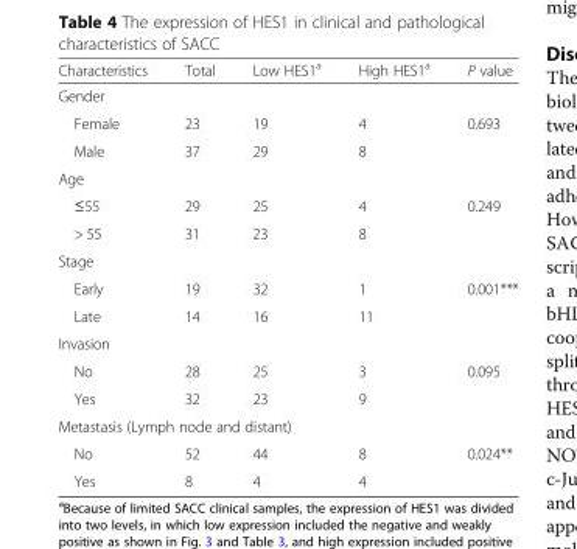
<table><thead><tr><td>Characteristics</td><td>Total</td><td>Low HES1<sup>a</sup></td><td>High HES1<sup>a</sup></td><td>P value</td></tr></thead><tbody><tr><td colspan="5">Gender</td></tr><tr><td>Female</td><td>23</td><td>19</td><td>4</td><td>0.693</td></tr><tr><td>Male</td><td>37</td><td>29</td><td>8</td><td></td></tr><tr><td colspan="5">Age</td></tr><tr><td>≤55</td><td>29</td><td>25</td><td>4</td><td>0.249</td></tr><tr><td>&gt; 55</td><td>31</td><td>23</td><td>8</td><td></td></tr><tr><td colspan="5">Stage</td></tr><tr><td>Early</td><td>19</td><td>32</td><td>1</td><td>0.001***</td></tr><tr><td>Late</td><td>14</td><td>16</td><td>11</td><td></td></tr><tr><td colspan="5">Invasion</td></tr><tr><td>No</td><td>28</td><td>25</td><td>3</td><td>0.095</td></tr><tr><td>Yes</td><td>32</td><td>23</td><td>9</td><td></td></tr><tr><td colspan="5">Metastasis (Lymph node and distant)</td></tr><tr><td>No</td><td>52</td><td>44</td><td>8</td><td>0.024**</td></tr><tr><td>Yes</td><td>8</td><td>4</td><td>4</td><td></td></tr></tbody></table>